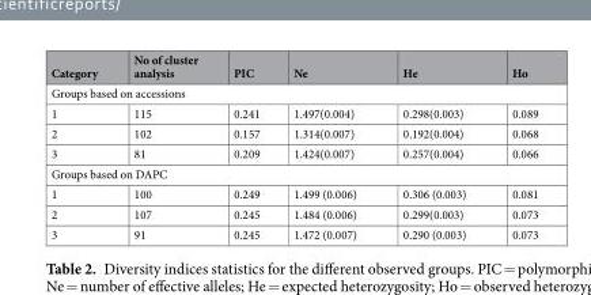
<table><thead><tr><td>Category</td><td>No of cluster analysis</td><td>PIC</td><td>Ne</td><td>He</td><td>Ho</td></tr></thead><tbody><tr><td colspan="6">Groups based on accessions</td></tr><tr><td>1</td><td>115</td><td>0.241</td><td>1.497(0.004)</td><td>0.298(0.003)</td><td>0.089</td></tr><tr><td>2</td><td>102</td><td>0.157</td><td>1.314(0.007)</td><td>0.192(0.004)</td><td>0.068</td></tr><tr><td>3</td><td>81</td><td>0.209</td><td>1.424(0.007)</td><td>0.257(0.004)</td><td>0.066</td></tr><tr><td colspan="6">Groups based on DAPC</td></tr><tr><td>1</td><td>100</td><td>0.249</td><td>1.499 (0.006)</td><td>0.306 (0.003)</td><td>0.081</td></tr><tr><td>2</td><td>107</td><td>0.245</td><td>1.484 (0.006)</td><td>0.299(0.003)</td><td>0.073</td></tr><tr><td>3</td><td>91</td><td>0.245</td><td>1.472 (0.007)</td><td>0.290 (0.003)</td><td>0.073</td></tr></tbody></table>